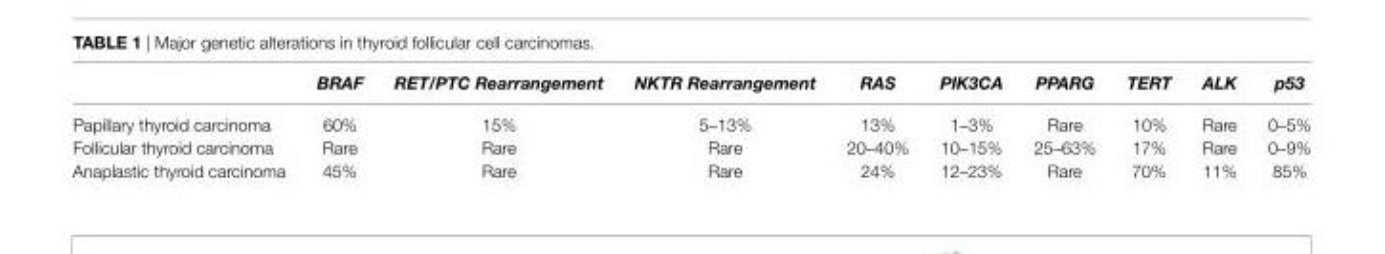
<table><thead><tr><td></td><td>BRAF</td><td>RET/PTC Rearrangement</td><td>NKTR Rearrangement</td><td>RAS</td><td>PIK3CA</td><td>PPARG</td><td>TERT</td><td>ALK</td><td>p53</td></tr></thead><tbody><tr><td>Papillary thyroid carcinoma</td><td>60%</td><td>15%</td><td>5–13%</td><td>13%</td><td>1–3%</td><td>Rare</td><td>10%</td><td>Rare</td><td>0–5%</td></tr><tr><td>Follicular thyroid carcinoma</td><td>Rare</td><td>Rare</td><td>Rare</td><td>20–40%</td><td>10–15%</td><td>25–63%</td><td>17%</td><td>Rare</td><td>0–9%</td></tr><tr><td>Anaplastic thyroid carcinoma</td><td>45%</td><td>Rare</td><td>Rare</td><td>24%</td><td>12–23%</td><td>Rare</td><td>70%</td><td>11%</td><td>85%</td></tr></tbody></table>